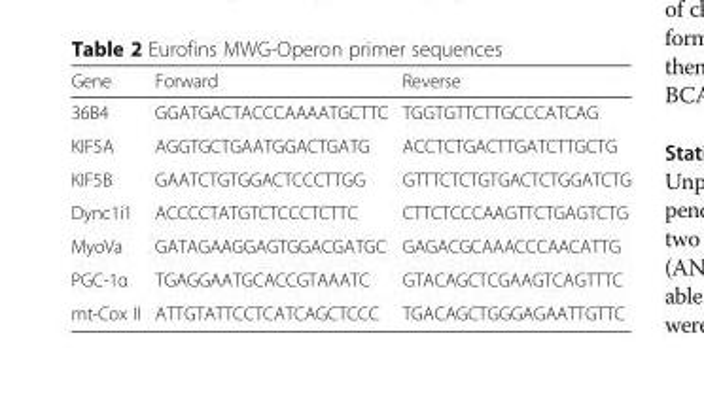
<table><thead><tr><td>Gene</td><td>Forward</td><td>Reverse</td></tr></thead><tbody><tr><td>36B4</td><td>GGATGACTACCCAAAATGCTTC</td><td>TGGTGTTCTTGCCCATCAG</td></tr><tr><td>KIF5A</td><td>AGGTGCTGAATGGACTGATG</td><td>ACCTCTGACTTGATCTTGCTG</td></tr><tr><td>KIF5B</td><td>GAATCTGTGGACTCCCTTGG</td><td>GTTTCTCTGTGACTCTGGATCTG</td></tr><tr><td>Dync1i1</td><td>ACCCCTATGTCTCCCTCTTC</td><td>CTTCTCCCAAGTTCTGAGTCTG</td></tr><tr><td>MyoVa</td><td>GATAGAAGGAGTGGACGATGC</td><td>GAGACGCAAACCCAACATTG</td></tr><tr><td>PGC-1α</td><td>TGAGGAATGCACCGTAAATC</td><td>GTACAGCTCGAAGTCAGTTTC</td></tr><tr><td>mt-Cox II</td><td>ATTGTATTCCTCATCAGCTCCC</td><td>TGACAGCTGGGAGAATTGTTC</td></tr></tbody></table>